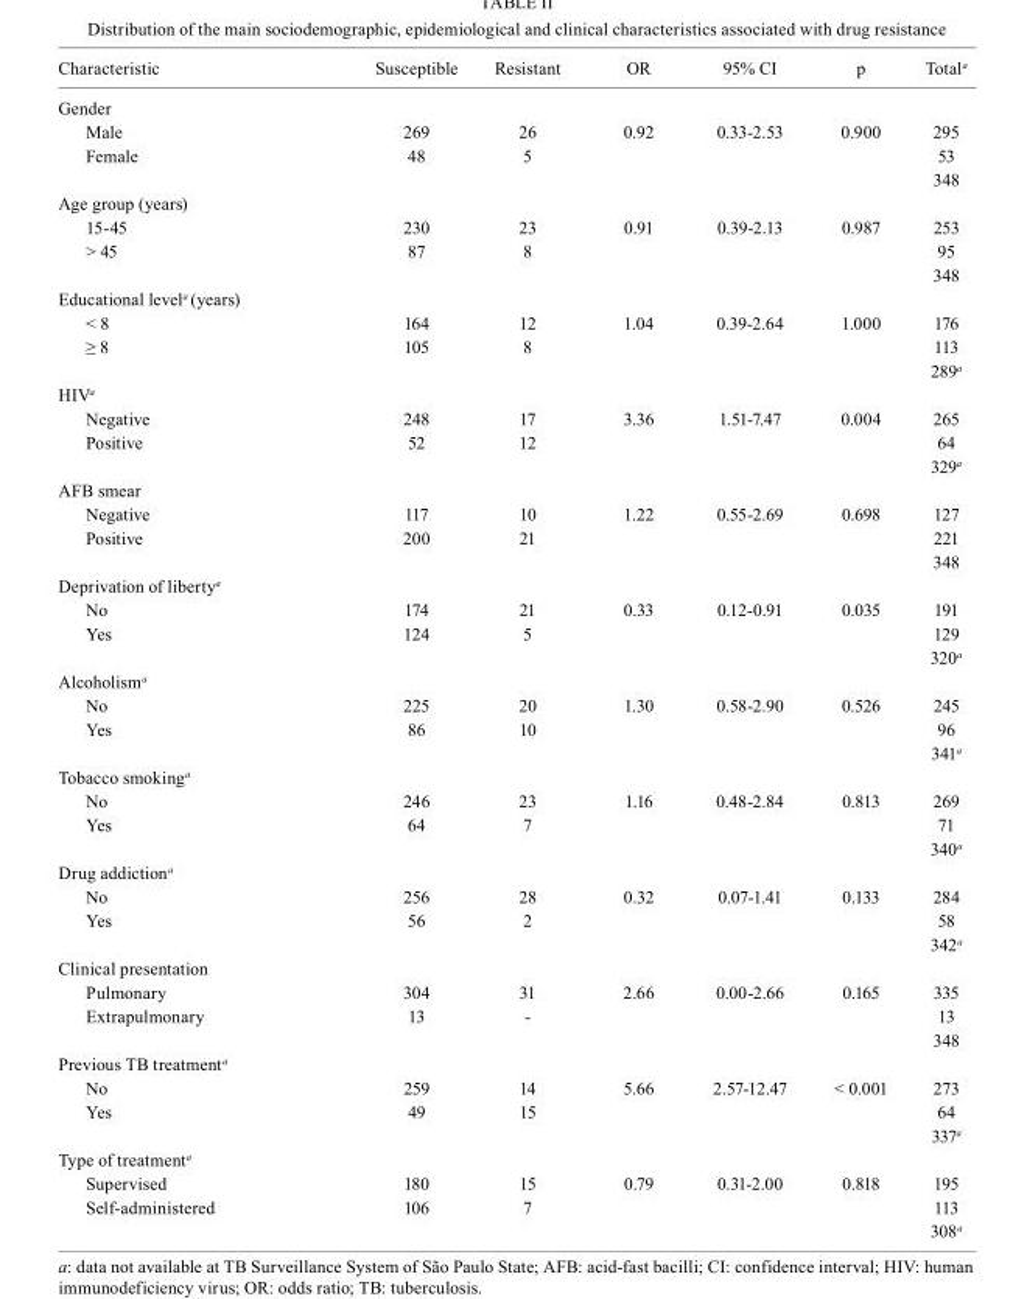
<table><thead><tr><td>Characteristic</td><td>Susceptible</td><td>Resistant</td><td>OR</td><td>95% CI</td><td>p</td><td>Total<sup>a</sup></td></tr></thead><tbody><tr><td colspan="7">Gender</td></tr><tr><td>Male</td><td>269</td><td>26</td><td>0.92</td><td>0.33-2.53</td><td>0.900</td><td>295</td></tr><tr><td rowspan="2">Female</td><td>48</td><td>5</td><td></td><td></td><td></td><td>53</td></tr><tr><td></td><td></td><td></td><td></td><td></td><td>348</td></tr><tr><td colspan="7">Age group (years)</td></tr><tr><td>15-45</td><td>230</td><td>23</td><td>0.91</td><td>0.39-2.13</td><td>0.987</td><td>253</td></tr><tr><td rowspan="2">&gt; 45</td><td>87</td><td>8</td><td></td><td></td><td></td><td>95</td></tr><tr><td></td><td></td><td></td><td></td><td></td><td>348</td></tr><tr><td colspan="7">Educational level<sup>a</sup> (years)</td></tr><tr><td>&lt; 8</td><td>164</td><td>12</td><td>1.04</td><td>0.39-2.64</td><td>1.000</td><td>176</td></tr><tr><td rowspan="2">≥ 8</td><td>105</td><td>8</td><td></td><td></td><td></td><td>113</td></tr><tr><td></td><td></td><td></td><td></td><td></td><td>289<sup>a</sup></td></tr><tr><td colspan="7">HIV<sup>a</sup></td></tr><tr><td>Negative</td><td>248</td><td>17</td><td>3.36</td><td>1.51-7.47</td><td>0.004</td><td>265</td></tr><tr><td rowspan="2">Positive</td><td>52</td><td>12</td><td></td><td></td><td></td><td>64</td></tr><tr><td></td><td></td><td></td><td></td><td></td><td>329<sup>a</sup></td></tr><tr><td colspan="7">AFB smear</td></tr><tr><td>Negative</td><td>117</td><td>10</td><td>1.22</td><td>0.55-2.69</td><td>0.698</td><td>127</td></tr><tr><td rowspan="2">Positive</td><td>200</td><td>21</td><td></td><td></td><td></td><td>221</td></tr><tr><td></td><td></td><td></td><td></td><td></td><td>348</td></tr><tr><td colspan="7">Deprivation of liberty<sup>a</sup></td></tr><tr><td>No</td><td>174</td><td>21</td><td>0.33</td><td>0.12-0.91</td><td>0.035</td><td>191</td></tr><tr><td rowspan="2">Yes</td><td>124</td><td>5</td><td></td><td></td><td></td><td>129</td></tr><tr><td></td><td></td><td></td><td></td><td></td><td>320<sup>a</sup></td></tr><tr><td colspan="7">Alcoholism<sup>a</sup></td></tr><tr><td>No</td><td>225</td><td>20</td><td>1.30</td><td>0.58-2.90</td><td>0.526</td><td>245</td></tr><tr><td rowspan="2">Yes</td><td>86</td><td>10</td><td></td><td></td><td></td><td>96</td></tr><tr><td></td><td></td><td></td><td></td><td></td><td>341<sup>a</sup></td></tr><tr><td colspan="7">Tobacco smoking<sup>a</sup></td></tr><tr><td>No</td><td>246</td><td>23</td><td>1.16</td><td>0.48-2.84</td><td>0.813</td><td>269</td></tr><tr><td rowspan="2">Yes</td><td>64</td><td>7</td><td></td><td></td><td></td><td>71</td></tr><tr><td></td><td></td><td></td><td></td><td></td><td>340<sup>a</sup></td></tr><tr><td colspan="7">Drug addiction<sup>a</sup></td></tr><tr><td>No</td><td>256</td><td>28</td><td>0.32</td><td>0.07-1.41</td><td>0.133</td><td>284</td></tr><tr><td rowspan="2">Yes</td><td>56</td><td>2</td><td></td><td></td><td></td><td>58</td></tr><tr><td></td><td></td><td></td><td></td><td></td><td>342<sup>a</sup></td></tr><tr><td colspan="7">Clinical presentation</td></tr><tr><td>Pulmonary</td><td>304</td><td>31</td><td>2.66</td><td>0.00-2.66</td><td>0.165</td><td>335</td></tr><tr><td rowspan="2">Extrapulmonary</td><td>13</td><td>-</td><td></td><td></td><td></td><td>13</td></tr><tr><td></td><td></td><td></td><td></td><td></td><td>348</td></tr><tr><td colspan="7">Previous TB treatment<sup>a</sup></td></tr><tr><td>No</td><td>259</td><td>14</td><td>5.66</td><td>2.57-12.47</td><td>&lt; 0.001</td><td>273</td></tr><tr><td rowspan="2">Yes</td><td>49</td><td>15</td><td></td><td></td><td></td><td>64</td></tr><tr><td></td><td></td><td></td><td></td><td></td><td>337<sup>a</sup></td></tr><tr><td colspan="7">Type of treatment<sup>a</sup></td></tr><tr><td>Supervised</td><td>180</td><td>15</td><td>0.79</td><td>0.31-2.00</td><td>0.818</td><td>195</td></tr><tr><td rowspan="2">Self-administered</td><td>106</td><td>7</td><td></td><td></td><td></td><td>113</td></tr><tr><td></td><td></td><td></td><td></td><td></td><td>308<sup>a</sup></td></tr></tbody></table>